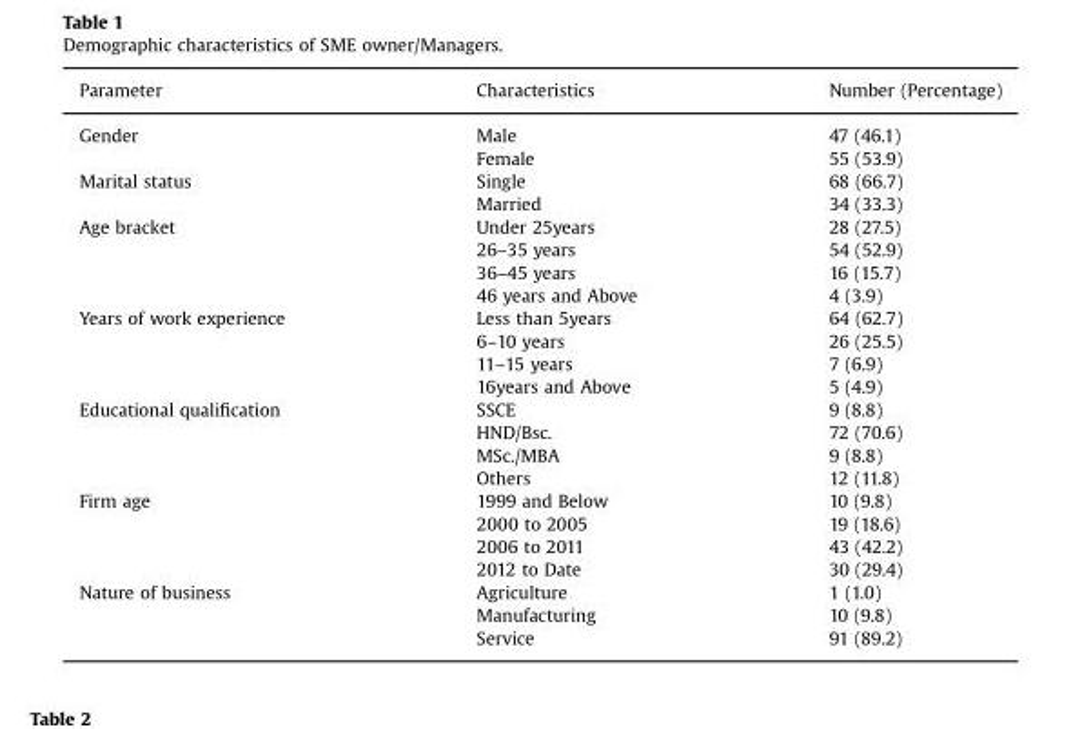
<table><thead><tr><td>Parameter</td><td>Characteristics</td><td>Number (Percentage)</td></tr></thead><tbody><tr><td rowspan="2">Gender</td><td>Male</td><td>47 (46.1)</td></tr><tr><td>Female</td><td>55 (53.9)</td></tr><tr><td rowspan="2">Marital status</td><td>Single</td><td>68 (66.7)</td></tr><tr><td>Married</td><td>34 (33.3)</td></tr><tr><td rowspan="4">Age bracket</td><td>Under 25years</td><td>28 (27.5)</td></tr><tr><td>26–35 years</td><td>54 (52.9)</td></tr><tr><td>36–45 years</td><td>16 (15.7)</td></tr><tr><td>46 years and Above</td><td>4 (3.9)</td></tr><tr><td rowspan="4">Years of work experience</td><td>Less than 5years</td><td>64 (62.7)</td></tr><tr><td>6–10 years</td><td>26 (25.5)</td></tr><tr><td>11–15 years</td><td>7 (6.9)</td></tr><tr><td>16years and Above</td><td>5 (4.9)</td></tr><tr><td rowspan="4">Educational qualification</td><td>SSCE</td><td>9 (8.8)</td></tr><tr><td>HND/Bsc.</td><td>72 (70.6)</td></tr><tr><td>MSc./MBA</td><td>9 (8.8)</td></tr><tr><td>Others</td><td>12 (11.8)</td></tr><tr><td rowspan="4">Firm age</td><td>1999 and Below</td><td>10 (9.8)</td></tr><tr><td>2000 to 2005</td><td>19 (18.6)</td></tr><tr><td>2006 to 2011</td><td>43 (42.2)</td></tr><tr><td>2012 to Date</td><td>30 (29.4)</td></tr><tr><td rowspan="3">Nature of business</td><td>Agriculture</td><td>1 (1.0)</td></tr><tr><td>Manufacturing</td><td>10 (9.8)</td></tr><tr><td>Service</td><td>91 (89.2)</td></tr></tbody></table>